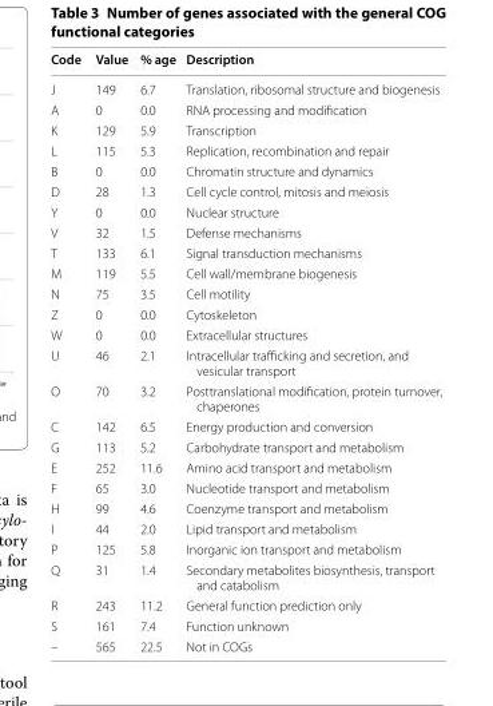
<table><thead><tr><td>Code</td><td>Value</td><td>% age</td><td>Description</td></tr></thead><tbody><tr><td>J</td><td>149</td><td>6.7</td><td>Translation, ribosomal structure and biogenesis</td></tr><tr><td>A</td><td>0</td><td>0.0</td><td>RNA processing and modification</td></tr><tr><td>K</td><td>129</td><td>5.9</td><td>Transcription</td></tr><tr><td>L</td><td>115</td><td>5.3</td><td>Replication, recombination and repair</td></tr><tr><td>B</td><td>0</td><td>0.0</td><td>Chromatin structure and dynamics</td></tr><tr><td>D</td><td>28</td><td>1.3</td><td>Cell cycle control, mitosis and meiosis</td></tr><tr><td>Y</td><td>0</td><td>0.0</td><td>Nuclear structure</td></tr><tr><td>V</td><td>32</td><td>1.5</td><td>Defense mechanisms</td></tr><tr><td>T</td><td>133</td><td>6.1</td><td>Signal transduction mechanisms</td></tr><tr><td>M</td><td>119</td><td>5.5</td><td>Cell wall/membrane biogenesis</td></tr><tr><td>N</td><td>75</td><td>3.5</td><td>Cell motility</td></tr><tr><td>Z</td><td>0</td><td>0.0</td><td>Cytoskeleton</td></tr><tr><td>W</td><td>0</td><td>0.0</td><td>Extracellular structures</td></tr><tr><td>U</td><td>46</td><td>2.1</td><td>Intracellular trafficking and secretion, and vesicular transport</td></tr><tr><td>O</td><td>70</td><td>3.2</td><td>Posttranslational modification, protein turnover, chaperones</td></tr><tr><td>C</td><td>142</td><td>6.5</td><td>Energy production and conversion</td></tr><tr><td>G</td><td>113</td><td>5.2</td><td>Carbohydrate transport and metabolism</td></tr><tr><td>E</td><td>252</td><td>11.6</td><td>Amino acid transport and metabolism</td></tr><tr><td>F</td><td>65</td><td>3.0</td><td>Nucleotide transport and metabolism</td></tr><tr><td>H</td><td>99</td><td>4.6</td><td>Coenzyme transport and metabolism</td></tr><tr><td>I</td><td>44</td><td>2.0</td><td>Lipid transport and metabolism</td></tr><tr><td>P</td><td>125</td><td>5.8</td><td>Inorganic ion transport and metabolism</td></tr><tr><td>Q</td><td>31</td><td>1.4</td><td>Secondary metabolites biosynthesis, transport and catabolism</td></tr><tr><td>R</td><td>243</td><td>11.2</td><td>General function prediction only</td></tr><tr><td>S</td><td>161</td><td>7.4</td><td>Function unknown</td></tr><tr><td>–</td><td>565</td><td>22.5</td><td>Not in COGs</td></tr></tbody></table>